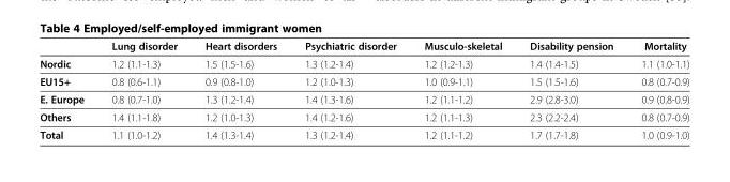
<table><thead><tr><td></td><td>Lung disorder</td><td>Heart disorders</td><td>Psychiatric disorder</td><td>Musculo-skeletal</td><td>Disability pension</td><td>Mortality</td></tr></thead><tbody><tr><td>Nordic</td><td>1.2 (1.1-1.3)</td><td>1.5 (1.5-1.6)</td><td>1.3 (1.2-1.4)</td><td>1.2 (1.2-1.3)</td><td>1.4 (1.4-1.5)</td><td>1.1 (1.0-1.1)</td></tr><tr><td>EU15+</td><td>0.8 (0.6-1.1)</td><td>0.9 (0.8-1.0)</td><td>1.2 (1.0-1.3)</td><td>1.0 (0.9-1.1)</td><td>1.5 (1.5-1.6)</td><td>0.8 (0.7-0.9)</td></tr><tr><td>E. Europe</td><td>0.8 (0.7-1.0)</td><td>1.3 (1.2-1.4)</td><td>1.4 (1.3-1.6)</td><td>1.2 (1.1-1.2)</td><td>2.9 (2.8-3.0)</td><td>0.9 (0.8-0.9)</td></tr><tr><td>Others</td><td>1.4 (1.1-1.8)</td><td>1.2 (1.0-1.3)</td><td>1.4 (1.2-1.6)</td><td>1.2 (1.1-1.3)</td><td>2.3 (2.2-2.4)</td><td>0.8 (0.7-0.9)</td></tr><tr><td>Total</td><td>1.1 (1.0-1.2)</td><td>1.4 (1.3-1.4)</td><td>1.3 (1.2-1.4)</td><td>1.2 (1.1-1.2)</td><td>1.7 (1.7-1.8)</td><td>1.0 (0.9-1.0)</td></tr></tbody></table>